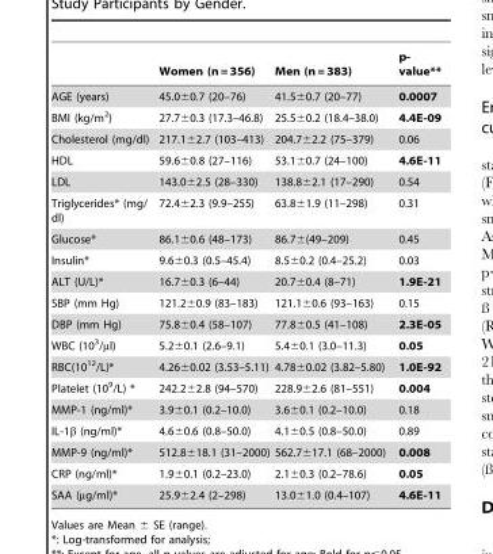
<table><thead><tr><td></td><td>Women (n = 356)</td><td>Men (n = 383)</td><td>p- value**</td></tr></thead><tbody><tr><td>AGE (years)</td><td>45.0±0.7 (20–76)</td><td>41.5±0.7 (20–77)</td><td>0.0007</td></tr><tr><td>BMI (kg/m<sup>2</sup>)</td><td>27.7±0.3 (17.3–46.8)</td><td>25.5±0.2 (18.4–38.0)</td><td>4.4E-09</td></tr><tr><td>Cholesterol (mg/dl)</td><td>217.1±2.7 (103–413)</td><td>204.7±2.2 (75–379)</td><td>0.06</td></tr><tr><td>HDL</td><td>59.6±0.8 (27–116)</td><td>53.1±0.7 (24–100)</td><td>4.6E-11</td></tr><tr><td>LDL</td><td>143.0±2.5 (28–330)</td><td>138.8±2.1 (17–290)</td><td>0.54</td></tr><tr><td>Triglycerides* (mg/ dl)</td><td>72.4±2.3 (9.9–255)</td><td>63.8±1.9 (11–298)</td><td>0.31</td></tr><tr><td>Glucose*</td><td>86.1±0.6 (48–173)</td><td>86.7±(49–209)</td><td>0.45</td></tr><tr><td>Insulin*</td><td>9.6±0.3 (0.5–45.4)</td><td>8.5±0.2 (0.4–25.2)</td><td>0.03</td></tr><tr><td>ALT (U/L)*</td><td>16.7±0.3 (6–44)</td><td>20.7±0.4 (8–71)</td><td>1.9E-21</td></tr><tr><td>SBP (mm Hg)</td><td>121.2±0.9 (83–183)</td><td>121.1±0.6 (93–163)</td><td>0.15</td></tr><tr><td>DBP (mm Hg)</td><td>75.8±0.4 (58–107)</td><td>77.8±0.5 (41–108)</td><td>2.3E-05</td></tr><tr><td>WBC (10<sup>3</sup>/µl)</td><td>5.2±0.1 (2.6–9.1)</td><td>5.4±0.1 (3.0–11.3)</td><td>0.05</td></tr><tr><td>RBC(10<sup>12</sup>/L)*</td><td>4.26±0.02 (3.53–5.11)</td><td>4.78±0.02 (3.82–5.80)</td><td>1.0E-92</td></tr><tr><td>Platelet (10<sup>9</sup>/L) *</td><td>242.2±2.8 (94–570)</td><td>228.9±2.6 (81–551)</td><td>0.004</td></tr><tr><td>MMP-1 (ng/ml)*</td><td>3.9±0.1 (0.2–10.0)</td><td>3.6±0.1 (0.2–10.0)</td><td>0.18</td></tr><tr><td>IL-1β (ng/ml)*</td><td>4.6±0.6 (0.8–50.0)</td><td>4.1±0.5 (0.8–50.0)</td><td>0.89</td></tr><tr><td>MMP-9 (ng/ml)*</td><td>512.8±18.1 (31–2000)</td><td>562.7±17.1 (68–2000)</td><td>0.008</td></tr><tr><td>CRP (ng/ml)*</td><td>1.9±0.1 (0.2–23.0)</td><td>2.1±0.3 (0.2–78.6)</td><td>0.05</td></tr><tr><td>SAA (µg/ml)*</td><td>25.9±2.4 (2–298)</td><td>13.0±1.0 (0.4–107)</td><td>4.6E-11</td></tr></tbody></table>